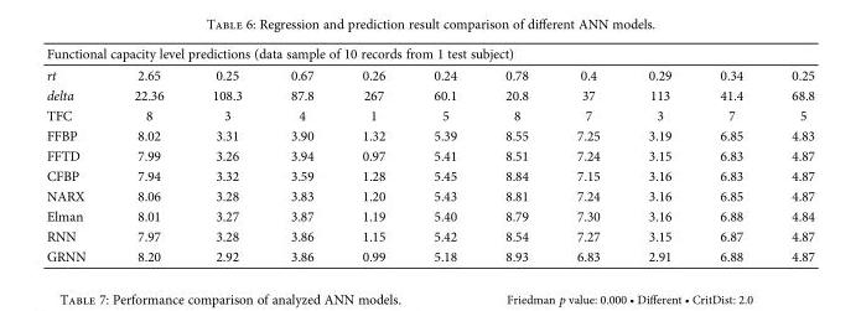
<table><thead><tr><td colspan="11">Functional capacity level predictions (data sample of 10 records from 1 test subject)</td></tr><tr><td>rt</td><td>2.65</td><td>0.25</td><td>0.67</td><td>0.26</td><td>0.24</td><td>0.78</td><td>0.4</td><td>0.29</td><td>0.34</td><td>0.25</td></tr></thead><tbody><tr><td>delta</td><td>22.36</td><td>108.3</td><td>87.8</td><td>267</td><td>60.1</td><td>20.8</td><td>37</td><td>113</td><td>41.4</td><td>68.8</td></tr><tr><td>TFC</td><td>8</td><td>3</td><td>4</td><td>1</td><td>5</td><td>8</td><td>7</td><td>3</td><td>7</td><td>5</td></tr><tr><td>FFBP</td><td>8.02</td><td>3.31</td><td>3.90</td><td>1.32</td><td>5.39</td><td>8.55</td><td>7.25</td><td>3.19</td><td>6.85</td><td>4.83</td></tr><tr><td>FFTD</td><td>7.99</td><td>3.26</td><td>3.94</td><td>0.97</td><td>5.41</td><td>8.51</td><td>7.24</td><td>3.15</td><td>6.83</td><td>4.87</td></tr><tr><td>CFBP</td><td>7.94</td><td>3.32</td><td>3.59</td><td>1.28</td><td>5.45</td><td>8.84</td><td>7.15</td><td>3.16</td><td>6.83</td><td>4.87</td></tr><tr><td>NARX</td><td>8.06</td><td>3.28</td><td>3.83</td><td>1.20</td><td>5.43</td><td>8.81</td><td>7.24</td><td>3.16</td><td>6.85</td><td>4.87</td></tr><tr><td>Elman</td><td>8.01</td><td>3.27</td><td>3.87</td><td>1.19</td><td>5.40</td><td>8.79</td><td>7.30</td><td>3.16</td><td>6.88</td><td>4.84</td></tr><tr><td>RNN</td><td>7.97</td><td>3.28</td><td>3.86</td><td>1.15</td><td>5.42</td><td>8.54</td><td>7.27</td><td>3.15</td><td>6.87</td><td>4.87</td></tr><tr><td>GRNN</td><td>8.20</td><td>2.92</td><td>3.86</td><td>0.99</td><td>5.18</td><td>8.93</td><td>6.83</td><td>2.91</td><td>6.88</td><td>4.87</td></tr></tbody></table>